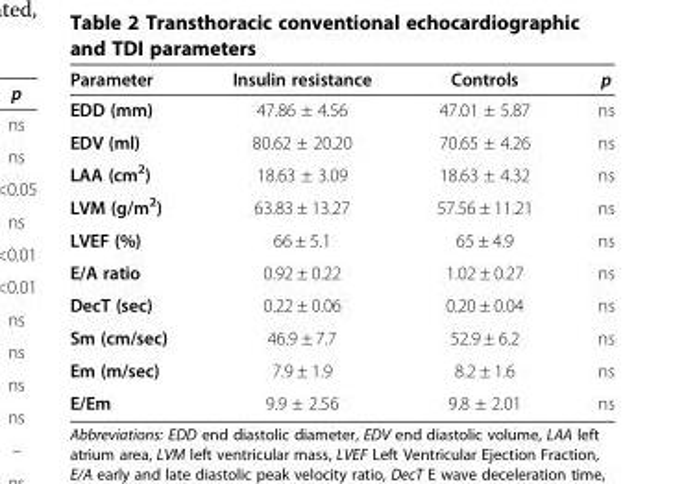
<table><thead><tr><td>Parameter</td><td>Insulin resistance</td><td>Controls</td><td>p</td></tr></thead><tbody><tr><td>EDD (mm)</td><td>47.86 ± 4.56</td><td>47.01 ± 5.87</td><td>ns</td></tr><tr><td>EDV (ml)</td><td>80.62 ± 20.20</td><td>70.65 ± 4.26</td><td>ns</td></tr><tr><td>LAA (cm<sup>2</sup>)</td><td>18.63 ± 3.09</td><td>18.63 ± 4.32</td><td>ns</td></tr><tr><td>LVM (g/m<sup>2</sup>)</td><td>63.83 ± 13.27</td><td>57.56 ± 11.21</td><td>ns</td></tr><tr><td>LVEF (%)</td><td>66 ± 5.1</td><td>65 ± 4.9</td><td>ns</td></tr><tr><td>E/A ratio</td><td>0.92 ± 0.22</td><td>1.02 ± 0.27</td><td>ns</td></tr><tr><td>DecT (sec)</td><td>0.22 ± 0.06</td><td>0.20 ± 0.04</td><td>ns</td></tr><tr><td>Sm (cm/sec)</td><td>46.9 ± 7.7</td><td>52.9 ± 6.2</td><td>ns</td></tr><tr><td>Em (m/sec)</td><td>7.9 ± 1.9</td><td>8.2 ± 1.6</td><td>ns</td></tr><tr><td>E/Em</td><td>9.9 ± 2.56</td><td>9.8 ± 2.01</td><td>ns</td></tr></tbody></table>